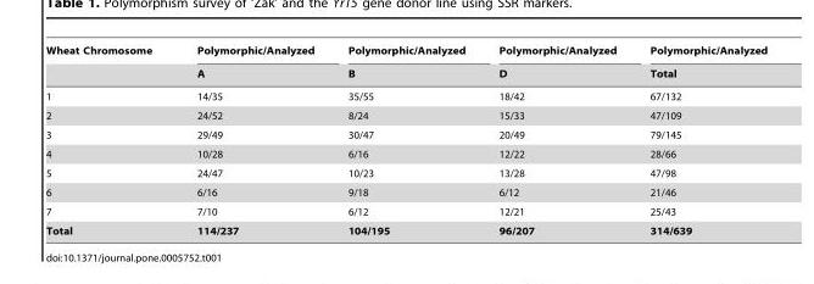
<table><thead><tr><td rowspan="2">Wheat Chromosome</td><td rowspan="2">Polymorphic/Analyzed A</td><td rowspan="2">Polymorphic/Analyzed B</td><td rowspan="2">Polymorphic/Analyzed D</td><td rowspan="2">Polymorphic/Analyzed Total</td></tr><tr></tr></thead><tbody><tr><td>1</td><td>14/35</td><td>35/55</td><td>18/42</td><td>67/132</td></tr><tr><td>2</td><td>24/52</td><td>8/24</td><td>15/33</td><td>47/109</td></tr><tr><td>3</td><td>29/49</td><td>30/47</td><td>20/49</td><td>79/145</td></tr><tr><td>4</td><td>10/28</td><td>6/16</td><td>12/22</td><td>28/66</td></tr><tr><td>5</td><td>24/47</td><td>10/23</td><td>13/28</td><td>47/98</td></tr><tr><td>6</td><td>6/16</td><td>9/18</td><td>6/12</td><td>21/46</td></tr><tr><td>7</td><td>7/10</td><td>6/12</td><td>12/21</td><td>25/43</td></tr><tr><td>Total</td><td>114/237</td><td>104/195</td><td>96/207</td><td>314/639</td></tr></tbody></table>